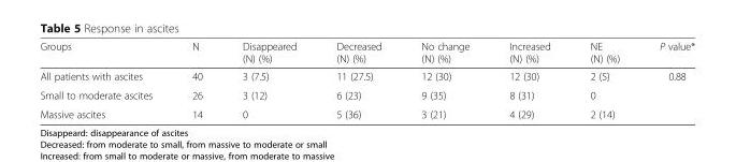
<table><thead><tr><td>Groups</td><td>N</td><td>Disappeared (N) (%)</td><td>Decreased (N) (%)</td><td>No change (N) (%)</td><td>Increased (N) (%)</td><td>NE (N) (%)</td><td>P value*</td></tr></thead><tbody><tr><td>All patients with ascites</td><td>40</td><td>3 (7.5)</td><td>11 (27.5)</td><td>12 (30)</td><td>12 (30)</td><td>2 (5)</td><td>0.88</td></tr><tr><td>Small to moderate ascites</td><td>26</td><td>3 (12)</td><td>6 (23)</td><td>9 (35)</td><td>8 (31)</td><td>0</td><td></td></tr><tr><td>Massive ascites</td><td>14</td><td>0</td><td>5 (36)</td><td>3 (21)</td><td>4 (29)</td><td>2 (14)</td><td></td></tr></tbody></table>